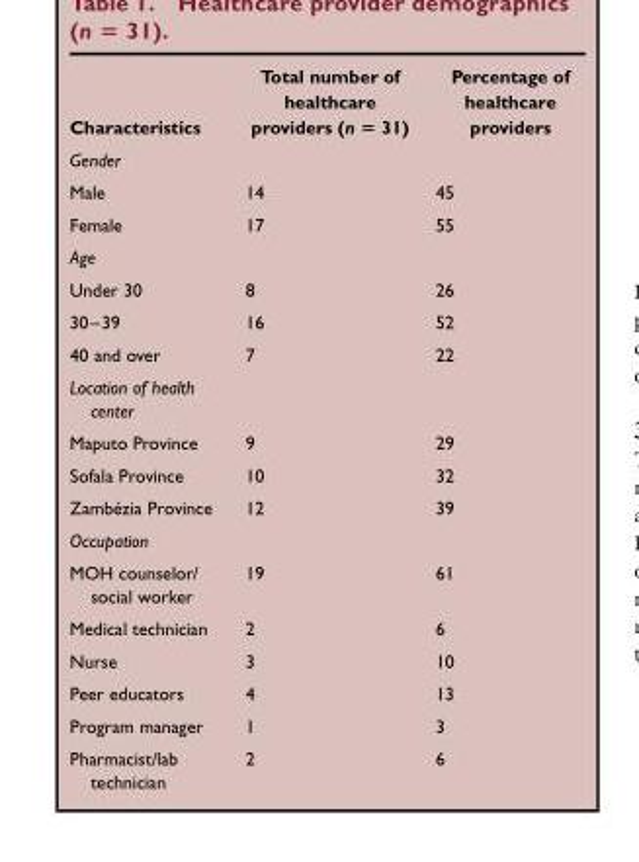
<table><thead><tr><td>Characteristics</td><td>Total number of healthcare providers (n = 31)</td><td>Percentage of healthcare providers</td></tr></thead><tbody><tr><td colspan="3">Gender</td></tr><tr><td>Male</td><td>14</td><td>45</td></tr><tr><td>Female</td><td>17</td><td>55</td></tr><tr><td colspan="3">Age</td></tr><tr><td>Under 30</td><td>8</td><td>26</td></tr><tr><td>30–39</td><td>16</td><td>52</td></tr><tr><td>40 and over</td><td>7</td><td>22</td></tr><tr><td colspan="3">Location of health center</td></tr><tr><td>Maputo Province</td><td>9</td><td>29</td></tr><tr><td>Sofala Province</td><td>10</td><td>32</td></tr><tr><td>Zambe´zia Province</td><td>12</td><td>39</td></tr><tr><td colspan="3">Occupation</td></tr><tr><td>MOH counselor/ social worker</td><td>19</td><td>61</td></tr><tr><td>Medical technician</td><td>2</td><td>6</td></tr><tr><td>Nurse</td><td>3</td><td>10</td></tr><tr><td>Peer educators</td><td>4</td><td>13</td></tr><tr><td>Program manager</td><td>1</td><td>3</td></tr><tr><td>Pharmacist/lab technician</td><td>2</td><td>6</td></tr></tbody></table>